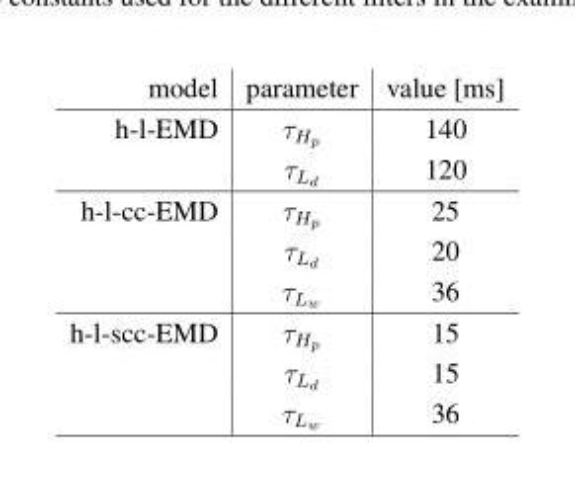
<table><thead><tr><td>model</td><td>parameter</td><td>value [ms]</td></tr></thead><tbody><tr><td rowspan="2">h-l-EMD</td><td>τHp</td><td>140</td></tr><tr><td>τLd</td><td>120</td></tr><tr><td rowspan="3">h-l-cc-EMD</td><td>τHp</td><td>25</td></tr><tr><td>τLd</td><td>20</td></tr><tr><td>τLw</td><td>36</td></tr><tr><td rowspan="3">h-l-scc-EMD</td><td>τHp</td><td>15</td></tr><tr><td>τLd</td><td>15</td></tr><tr><td>τLw</td><td>36</td></tr></tbody></table>